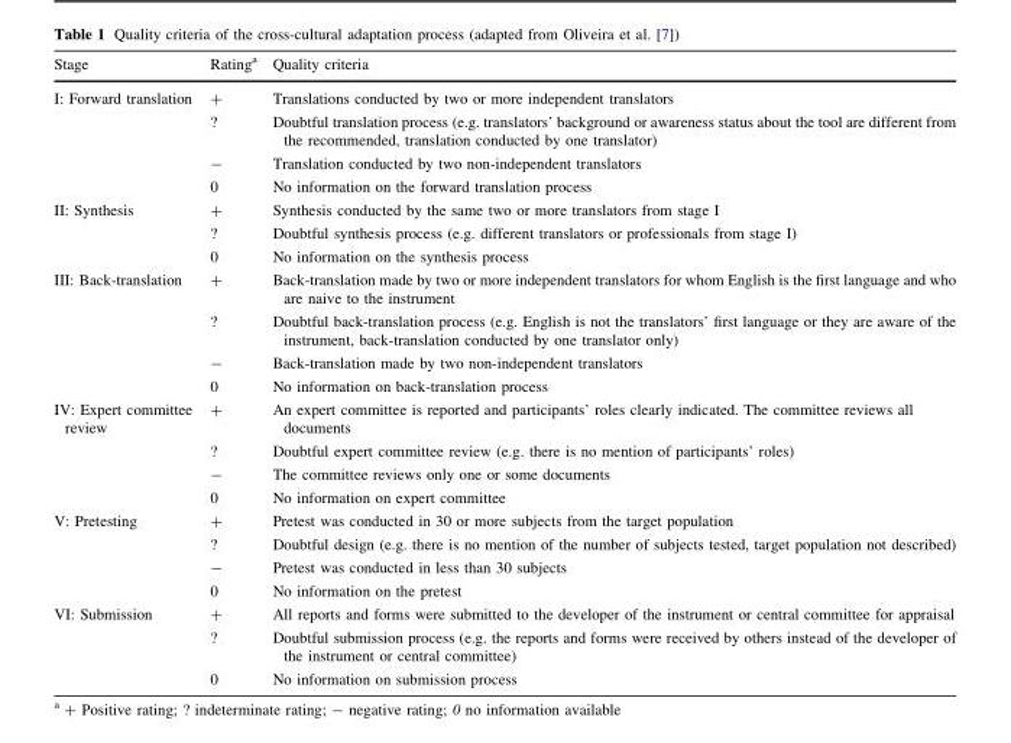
<table><thead><tr><td>Stage</td><td>Rating<sup>a</sup></td><td>Quality criteria</td></tr></thead><tbody><tr><td rowspan="4">I: Forward translation</td><td>+</td><td>Translations conducted by two or more independent translators</td></tr><tr><td>?</td><td>Doubtful translation process (e.g. translators’ background or awareness status about the tool are different from the recommended, translation conducted by one translator)</td></tr><tr><td>-</td><td>Translation conducted by two non-independent translators</td></tr><tr><td>0</td><td>No information on the forward translation process</td></tr><tr><td rowspan="3">II: Synthesis</td><td>+</td><td>Synthesis conducted by the same two or more translators from stage I</td></tr><tr><td>?</td><td>Doubtful synthesis process (e.g. different translators or professionals from stage I)</td></tr><tr><td>0</td><td>No information on the synthesis process</td></tr><tr><td rowspan="4">III: Back-translation</td><td>+</td><td>Back-translation made by two or more independent translators for whom English is the first language and who are naive to the instrument</td></tr><tr><td>?</td><td>Doubtful back-translation process (e.g. English is not the translators’ first language or they are aware of the instrument, back-translation conducted by one translator only)</td></tr><tr><td>-</td><td>Back-translation made by two non-independent translators</td></tr><tr><td>0</td><td>No information on back-translation process</td></tr><tr><td rowspan="4">IV: Expert committee review</td><td>+</td><td>An expert committee is reported and participants’ roles clearly indicated. The committee reviews all documents</td></tr><tr><td>?</td><td>Doubtful expert committee review (e.g. there is no mention of participants’ roles)</td></tr><tr><td>-</td><td>The committee reviews only one or some documents</td></tr><tr><td>0</td><td>No information on expert committee</td></tr><tr><td rowspan="4">V: Pretesting</td><td>+</td><td>Pretest was conducted in 30 or more subjects from the target population</td></tr><tr><td>?</td><td>Doubtful design (e.g. there is no mention of the number of subjects tested, target population not described)</td></tr><tr><td>-</td><td>Pretest was conducted in less than 30 subjects</td></tr><tr><td>0</td><td>No information on the pretest</td></tr><tr><td rowspan="3">VI: Submission</td><td>+</td><td>All reports and forms were submitted to the developer of the instrument or central committee for appraisal</td></tr><tr><td>?</td><td>Doubtful submission process (e.g. the reports and forms were received by others instead of the developer of the instrument or central committee)</td></tr><tr><td>0</td><td>No information on submission process</td></tr></tbody></table>